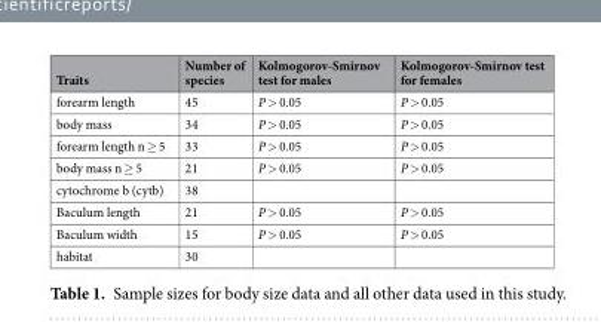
<table><thead><tr><td>Traits</td><td>Number of species</td><td>Kolmogorov-Smirnov test for males</td><td>Kolmogorov-Smirnov test for females</td></tr></thead><tbody><tr><td>forearm length</td><td>45</td><td>P &gt; 0.05</td><td>P &gt; 0.05</td></tr><tr><td>body mass</td><td>34</td><td>P &gt; 0.05</td><td>P &gt; 0.05</td></tr><tr><td>forearm length n ≥ 5</td><td>33</td><td>P &gt; 0.05</td><td>P &gt; 0.05</td></tr><tr><td>body mass n ≥ 5</td><td>21</td><td>P &gt; 0.05</td><td>P &gt; 0.05</td></tr><tr><td>cytochrome b (cytb)</td><td>38</td><td></td><td></td></tr><tr><td>Baculum length</td><td>21</td><td>P &gt; 0.05</td><td>P &gt; 0.05</td></tr><tr><td>Baculum width</td><td>15</td><td>P &gt; 0.05</td><td>P &gt; 0.05</td></tr><tr><td>habitat</td><td>30</td><td></td><td></td></tr></tbody></table>